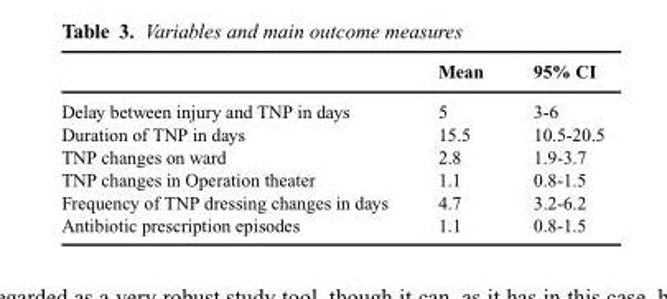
<table><thead><tr><td></td><td>Mean</td><td>95% CI</td></tr></thead><tbody><tr><td>Delay between injury and TNP in days</td><td>5</td><td>3-6</td></tr><tr><td>Duration of TNP in days</td><td>15.5</td><td>10.5-20.5</td></tr><tr><td>TNP changes on ward</td><td>2.8</td><td>1.9-3.7</td></tr><tr><td>TNP changes in Operation theater</td><td>1.1</td><td>0.8-1.5</td></tr><tr><td>Frequency of TNP dressing changes in days</td><td>4.7</td><td>3.2-6.2</td></tr><tr><td>Antibiotic prescription episodes</td><td>1.1</td><td>0.8-1.5</td></tr></tbody></table>